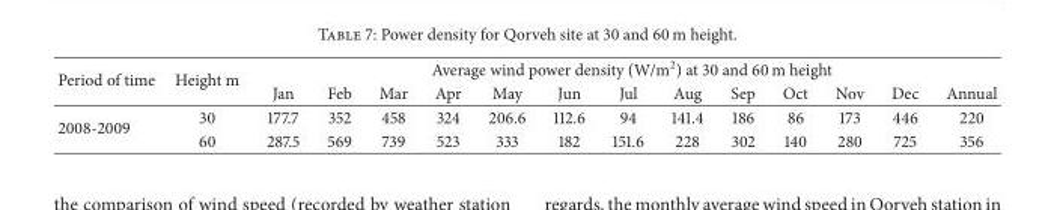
<table><thead><tr><td rowspan="2">Period of time</td><td rowspan="2">Height m</td><td colspan="13">Average wind power density (W/m<sup>2</sup>) at 30 and 60 m height</td></tr><tr><td>Jan</td><td>Feb</td><td>Mar</td><td>Apr</td><td>May</td><td>Jun</td><td>Jul</td><td>Aug</td><td>Sep</td><td>Oct</td><td>Nov</td><td>Dec</td><td>Annual</td></tr></thead><tbody><tr><td rowspan="2">2008-2009</td><td>30</td><td>177.7</td><td>352</td><td>458</td><td>324</td><td>206.6</td><td>112.6</td><td>94</td><td>141.4</td><td>186</td><td>86</td><td>173</td><td>446</td><td>220</td></tr><tr><td>60</td><td>287.5</td><td>569</td><td>739</td><td>523</td><td>333</td><td>182</td><td>151.6</td><td>228</td><td>302</td><td>140</td><td>280</td><td>725</td><td>356</td></tr></tbody></table>